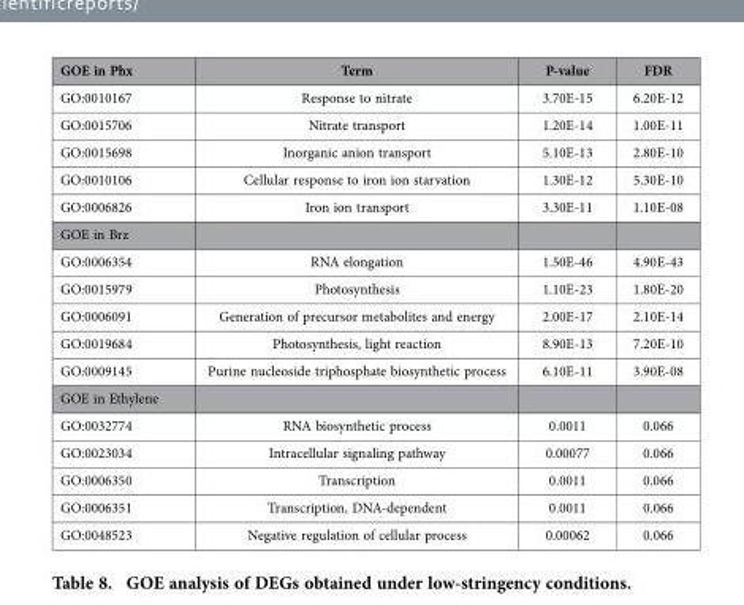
<table><thead><tr><td>GOE in Phx</td><td>Term</td><td>P-value</td><td>FDR</td></tr></thead><tbody><tr><td>GO:0010167</td><td>Response to nitrate</td><td>3.70E-15</td><td>6.20E-12</td></tr><tr><td>GO:0015706</td><td>Nitrate transport</td><td>1.20E-14</td><td>1.00E-11</td></tr><tr><td>GO:0015698</td><td>Inorganic anion transport</td><td>5.10E-13</td><td>2.80E-10</td></tr><tr><td>GO:0010106</td><td>Cellular response to iron ion starvation</td><td>1.30E-12</td><td>5.30E-10</td></tr><tr><td>GO:0006826</td><td>Iron ion transport</td><td>3.30E-11</td><td>1.10E-08</td></tr><tr><td colspan="4">GOE in Brz</td></tr><tr><td>GO:0006354</td><td>RNA elongation</td><td>1.50E-46</td><td>4.90E-43</td></tr><tr><td>GO:0015979</td><td>Photosynthesis</td><td>1.10E-23</td><td>1.80E-20</td></tr><tr><td>GO:0006091</td><td>Generation of precursor metabolites and energy</td><td>2.00E-17</td><td>2.10E-14</td></tr><tr><td>GO:0019684</td><td>Photosynthesis, light reaction</td><td>8.90E-13</td><td>7.20E-10</td></tr><tr><td>GO:0009145</td><td>Purine nucleoside triphosphate biosynthetic process</td><td>6.10E-11</td><td>3.90E-08</td></tr><tr><td colspan="4">GOE in Ethylene</td></tr><tr><td>GO:0032774</td><td>RNA biosynthetic process</td><td>0.0011</td><td>0.066</td></tr><tr><td>GO:0023034</td><td>Intracellular signaling pathway</td><td>0.00077</td><td>0.066</td></tr><tr><td>GO:0006350</td><td>Transcription</td><td>0.0011</td><td>0.066</td></tr><tr><td>GO:0006351</td><td>Transcription, DNA-dependent</td><td>0.0011</td><td>0.066</td></tr><tr><td>GO:0048523</td><td>Negative regulation of cellular process</td><td>0.00062</td><td>0.066</td></tr></tbody></table>